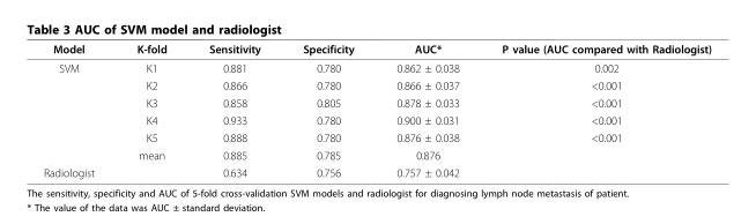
<table><thead><tr><td>Model</td><td>K-fold</td><td>Sensitivity</td><td>Specificity</td><td>AUC*</td><td>P value (AUC compared with Radiologist)</td></tr></thead><tbody><tr><td rowspan="6">SVM</td><td>K1</td><td>0.881</td><td>0.780</td><td>0.862 ± 0.038</td><td>0.002</td></tr><tr><td>K2</td><td>0.866</td><td>0.780</td><td>0.866 ± 0.037</td><td>&lt;0.001</td></tr><tr><td>K3</td><td>0.858</td><td>0.805</td><td>0.878 ± 0.033</td><td>&lt;0.001</td></tr><tr><td>K4</td><td>0.933</td><td>0.780</td><td>0.900 ± 0.031</td><td>&lt;0.001</td></tr><tr><td>K5</td><td>0.888</td><td>0.780</td><td>0.876 ± 0.038</td><td>&lt;0.001</td></tr><tr><td>mean</td><td>0.885</td><td>0.785</td><td>0.876</td><td></td></tr><tr><td>Radiologist</td><td></td><td>0.634</td><td>0.756</td><td>0.757 ± 0.042</td><td></td></tr></tbody></table>